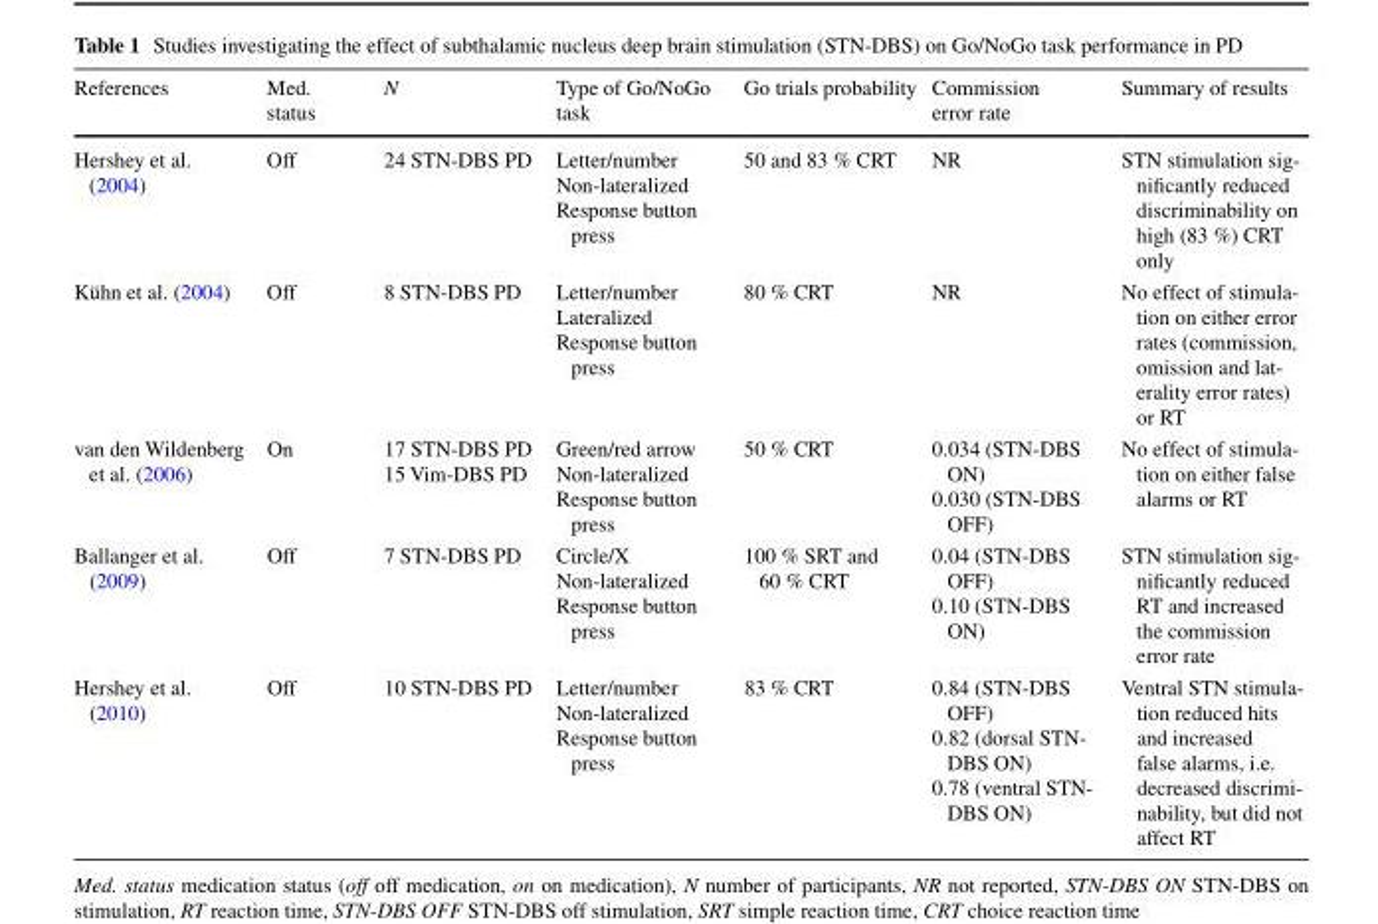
<table><thead><tr><td>References</td><td>Med. status</td><td>N</td><td>Type of Go/NoGo task</td><td>Go trials probability</td><td>Commission error rate</td><td>Summary of results</td></tr></thead><tbody><tr><td>Hershey et al. (2004)</td><td>Off</td><td>24 STN-DBS PD</td><td>Letter/number Non-lateralized Response button press</td><td>50 and 83 % CRT</td><td>NR</td><td>STN stimulation sig- nificantly reduced discriminability on high (83 %) CRT only</td></tr><tr><td>Kühn et al. (2004)</td><td>Off</td><td>8 STN-DBS PD</td><td>Letter/number Lateralized Response button press</td><td>80 % CRT</td><td>NR</td><td>No effect of stimula- tion on either error rates (commission, omission and lat- erality error rates) or RT</td></tr><tr><td>van den Wildenberg et al. (2006)</td><td>On</td><td>17 STN-DBS PD 15 Vim-DBS PD</td><td>Green/red arrow Non-lateralized Response button press</td><td>50 % CRT</td><td>0.034 (STN-DBS ON) 0.030 (STN-DBS OFF)</td><td>No effect of stimula- tion on either false alarms or RT</td></tr><tr><td>Ballanger et al. (2009)</td><td>Off</td><td>7 STN-DBS PD</td><td>Circle/X Non-lateralized Response button press</td><td>100 % SRT and 60 % CRT</td><td>0.04 (STN-DBS OFF) 0.10 (STN-DBS ON)</td><td>STN stimulation sig- nificantly reduced RT and increased the commission error rate</td></tr><tr><td>Hershey et al. (2010)</td><td>Off</td><td>10 STN-DBS PD</td><td>Letter/number Non-lateralized Response button press</td><td>83 % CRT</td><td>0.84 (STN-DBS OFF) 0.82 (dorsal STN- DBS ON) 0.78 (ventral STN- DBS ON)</td><td>Ventral STN stimula- tion reduced hits and increased false alarms, i.e. decreased discrimi- nability, but did not affect RT</td></tr></tbody></table>